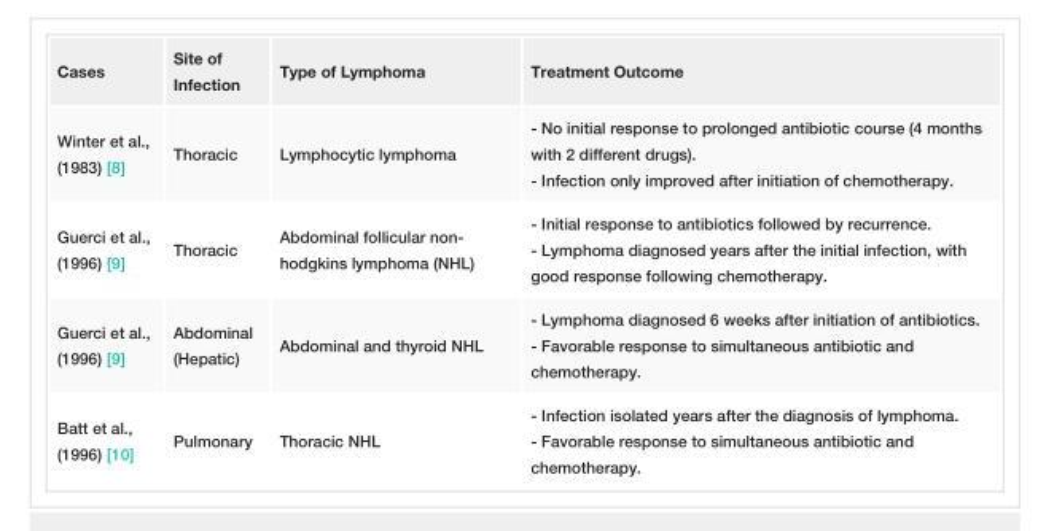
<table><tbody><tr><td>Cases</td><td>Site of Infection</td><td>Type of Lymphoma</td><td>Treatment Outcome</td></tr><tr><td>Winter et al., (1983) [8]</td><td>Thoracic</td><td>Lymphocytic lymphoma</td><td>- No initial response to prolonged antibiotic course (4 months with 2 different drugs). - Infection only improved after initiation of chemotherapy.</td></tr><tr><td>Guerci et al., (1996) [9]</td><td>Thoracic</td><td>Abdominal follicular non- hodgkins lymphoma (NHL)</td><td>- Initial response to antibiotics followed by recurrence. - Lymphoma diagnosed years after the initial infection, with good response following chemotherapy.</td></tr><tr><td>Guerci et al., (1996) [9]</td><td>Abdominal (Hepatic)</td><td>Abdominal and thyroid NHL</td><td>- Lymphoma diagnosed 6 weeks after initiation of antibiotics. - Favorable response to simultaneous antibiotic and chemotherapy.</td></tr><tr><td>Batt et al., (1996) [10]</td><td>Pulmonary</td><td>Thoracic NHL</td><td>- Infection isolated years after the diagnosis of lymphoma. - Favorable response to simultaneous antibiotic and chemotherapy.</td></tr></tbody></table>